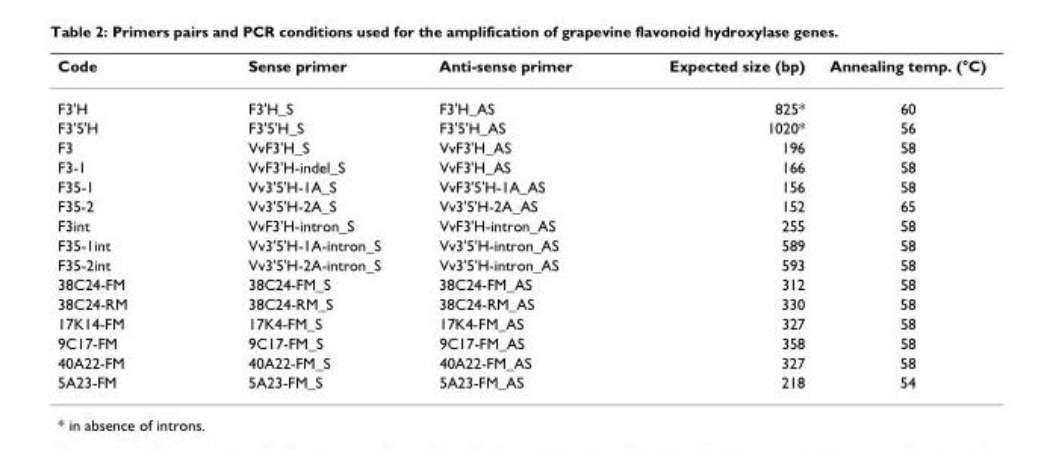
<table><thead><tr><td>Code</td><td>Sense primer</td><td>Anti-sense primer</td><td>Expected size (bp)</td><td>Annealing temp. (°C)</td></tr></thead><tbody><tr><td>F3&#x27;H</td><td>F3&#x27;H_S</td><td>F3&#x27;H_AS</td><td>825*</td><td>60</td></tr><tr><td>F3&#x27;5&#x27;H</td><td>F3&#x27;5&#x27;H_S</td><td>F3&#x27;5&#x27;H_AS</td><td>1020*</td><td>56</td></tr><tr><td>F3</td><td>VvF3&#x27;H_S</td><td>VvF3&#x27;H_AS</td><td>196</td><td>58</td></tr><tr><td>F3-1</td><td>VvF3&#x27;H-indel_S</td><td>VvF3&#x27;H_AS</td><td>166</td><td>58</td></tr><tr><td>F35-1</td><td>Vv3&#x27;5&#x27;H-1A_S</td><td>VvF3&#x27;5&#x27;H-1A_AS</td><td>156</td><td>58</td></tr><tr><td>F35-2</td><td>Vv3&#x27;5&#x27;H-2A_S</td><td>Vv3&#x27;5&#x27;H-2A_AS</td><td>152</td><td>65</td></tr><tr><td>F3int</td><td>VvF3&#x27;H-intron_S</td><td>VvF3&#x27;H-intron_AS</td><td>255</td><td>58</td></tr><tr><td>F35-1int</td><td>Vv3&#x27;5&#x27;H-1A-intron_S</td><td>Vv3&#x27;5&#x27;H-intron_AS</td><td>589</td><td>58</td></tr><tr><td>F35-2int</td><td>Vv3&#x27;5&#x27;H-2A-intron_S</td><td>Vv3&#x27;5&#x27;H-intron_AS</td><td>593</td><td>58</td></tr><tr><td>38C24-FM</td><td>38C24-FM_S</td><td>38C24-FM_AS</td><td>312</td><td>58</td></tr><tr><td>38C24-RM</td><td>38C24-RM_S</td><td>38C24-RM_AS</td><td>330</td><td>58</td></tr><tr><td>17K14-FM</td><td>17K4-FM_S</td><td>17K4-FM_AS</td><td>327</td><td>58</td></tr><tr><td>9C17-FM</td><td>9C17-FM_S</td><td>9C17-FM_AS</td><td>358</td><td>58</td></tr><tr><td>40A22-FM</td><td>40A22-FM_S</td><td>40A22-FM_AS</td><td>327</td><td>58</td></tr><tr><td>5A23-FM</td><td>5A23-FM_S</td><td>5A23-FM_AS</td><td>218</td><td>54</td></tr></tbody></table>